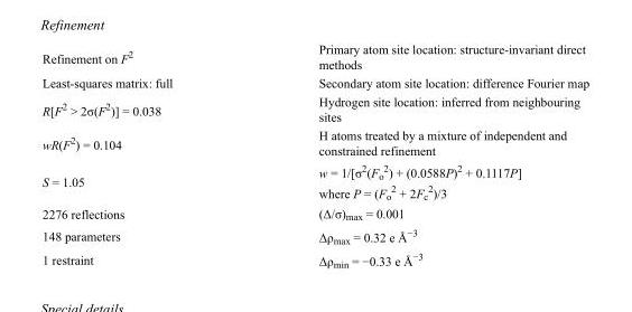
<table><tbody><tr><td>Refinement on F<sup>2</sup></td><td>Primary atom site location: structure-invariant direct methods</td></tr><tr><td>Least-squares matrix: full</td><td>Secondary atom site location: difference Fourier map</td></tr><tr><td>R[F<sup>2</sup> &gt; 2σ(F<sup>2</sup>)] = 0.038</td><td>Hydrogen site location: inferred from neighbouring sites</td></tr><tr><td>wR(F<sup>2</sup>) = 0.104</td><td>H atoms treated by a mixture of independent and constrained refinement</td></tr><tr><td>S = 1.05</td><td>w = 1/[σ<sup>2</sup>(F<sub>o</sub> <sup>2</sup>) + (0.0588P)<sup>2</sup> + 0.1117P] where P = (F<sub>o</sub> <sup>2</sup> + 2F<sub>c</sub> <sup>2</sup>)/3</td></tr><tr><td>2276 reflections</td><td>(Δ/σ)<sub>max</sub> = 0.001</td></tr><tr><td>148 parameters</td><td>Δρ<sub>max</sub> = 0.32 e Å<sup>−3</sup></td></tr><tr><td>1 restraint</td><td>Δρ<sub>min</sub> = −0.33 e Å<sup>−3</sup></td></tr></tbody></table>